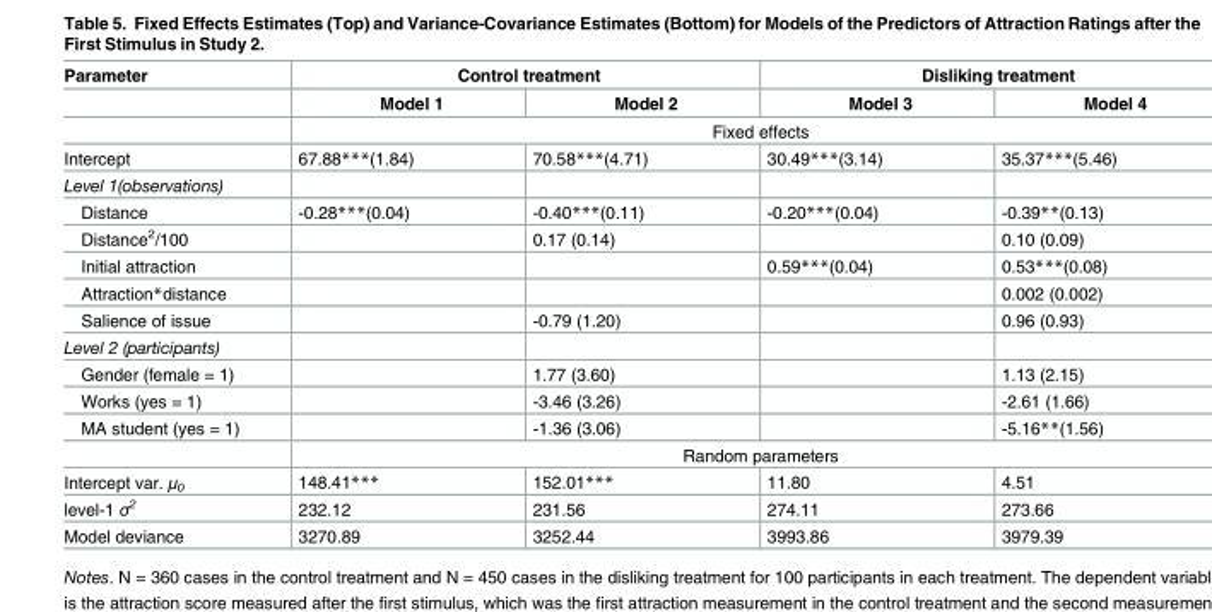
<table><thead><tr><td rowspan="2">Parameter</td><td colspan="2">Control treatment</td><td colspan="2">Disliking treatment</td></tr><tr><td>Model 1</td><td>Model 2</td><td>Model 3</td><td>Model 4</td></tr></thead><tbody><tr><td></td><td colspan="4">Fixed effects</td></tr><tr><td>Intercept</td><td>67.88***(1.84)</td><td>70.58***(4.71)</td><td>30.49***(3.14)</td><td>35.37***(5.46)</td></tr><tr><td colspan="5">Level 1(observations)</td></tr><tr><td>Distance</td><td>-0.28***(0.04)</td><td>-0.40***(0.11)</td><td>-0.20***(0.04)</td><td>-0.39**(0.13)</td></tr><tr><td>Distance<sup>2</sup>/100</td><td></td><td>0.17 (0.14)</td><td></td><td>0.10 (0.09)</td></tr><tr><td>Initial attraction</td><td></td><td></td><td>0.59***(0.04)</td><td>0.53***(0.08)</td></tr><tr><td>Attraction*distance</td><td></td><td></td><td></td><td>0.002 (0.002)</td></tr><tr><td>Salience of issue</td><td></td><td>-0.79 (1.20)</td><td></td><td>0.96 (0.93)</td></tr><tr><td colspan="5">Level 2 (participants)</td></tr><tr><td>Gender (female = 1)</td><td></td><td>1.77 (3.60)</td><td></td><td>1.13 (2.15)</td></tr><tr><td>Works (yes = 1)</td><td></td><td>-3.46 (3.26)</td><td></td><td>-2.61 (1.66)</td></tr><tr><td rowspan="2">MA student (yes = 1)</td><td></td><td>-1.36 (3.06)</td><td></td><td>-5.16**(1.56)</td></tr><tr><td colspan="4">Random parameters</td></tr><tr><td>Intercept var. μ<sub>0</sub></td><td>148.41***</td><td>152.01***</td><td>11.80</td><td>4.51</td></tr><tr><td>level-1 σ<sup>2</sup></td><td>232.12</td><td>231.56</td><td>274.11</td><td>273.66</td></tr><tr><td>Model deviance</td><td>3270.89</td><td>3252.44</td><td>3993.86</td><td>3979.39</td></tr></tbody></table>